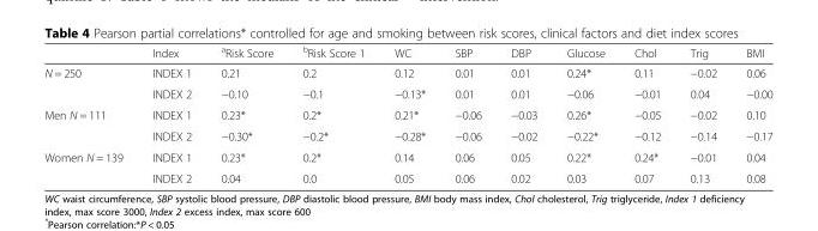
<table><thead><tr><td></td><td>Index</td><td><sup>a</sup>Risk Score</td><td><sup>b</sup>Risk Score 1</td><td>WC</td><td>SBP</td><td>DBP</td><td>Glucose</td><td>Chol</td><td>Trig</td><td>BMI</td></tr></thead><tbody><tr><td rowspan="2">N = 250</td><td>INDEX 1</td><td>0.21</td><td>0.2</td><td>0.12</td><td>0.01</td><td>0.01</td><td>0.24*</td><td>0.11</td><td>−0.02</td><td>0.06</td></tr><tr><td>INDEX 2</td><td>−0.10</td><td>−0.1</td><td>−0.13*</td><td>0.01</td><td>0.01</td><td>−0.06</td><td>−0.01</td><td>0.04</td><td>−0.00</td></tr><tr><td rowspan="2">Men N = 111</td><td>INDEX 1</td><td>0.23*</td><td>0.2*</td><td>0.21*</td><td>−0.06</td><td>−0.03</td><td>0.26*</td><td>−0.05</td><td>−0.02</td><td>0.10</td></tr><tr><td>INDEX 2</td><td>−0.30*</td><td>−0.2*</td><td>−0.28*</td><td>−0.06</td><td>−0.02</td><td>−0.22*</td><td>−0.12</td><td>−0.14</td><td>−0.17</td></tr><tr><td rowspan="2">Women N = 139</td><td>INDEX 1</td><td>0.23*</td><td>0.2*</td><td>0.14</td><td>0.06</td><td>0.05</td><td>0.22*</td><td>0.24*</td><td>−0.01</td><td>0.04</td></tr><tr><td>INDEX 2</td><td>0.04</td><td>0.0</td><td>0.05</td><td>0.06</td><td>0.02</td><td>0.03</td><td>0.07</td><td>0.13</td><td>0.08</td></tr></tbody></table>